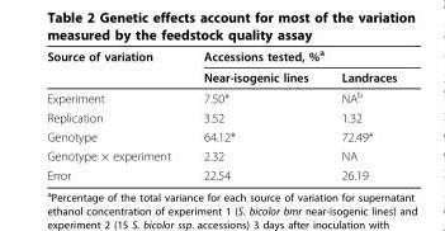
<table><thead><tr><td rowspan="2">Source of variation</td><td colspan="2">Accessions tested, %<sup>a</sup></td></tr><tr><td>Near-isogenic lines</td><td>Landraces</td></tr></thead><tbody><tr><td>Experiment</td><td>7.50*</td><td>NA<sup>b</sup></td></tr><tr><td>Replication</td><td>3.52</td><td>1.32</td></tr><tr><td>Genotype</td><td>64.12*</td><td>72.49*</td></tr><tr><td>Genotype × experiment</td><td>2.32</td><td>NA</td></tr><tr><td>Error</td><td>22.54</td><td>26.19</td></tr></tbody></table>